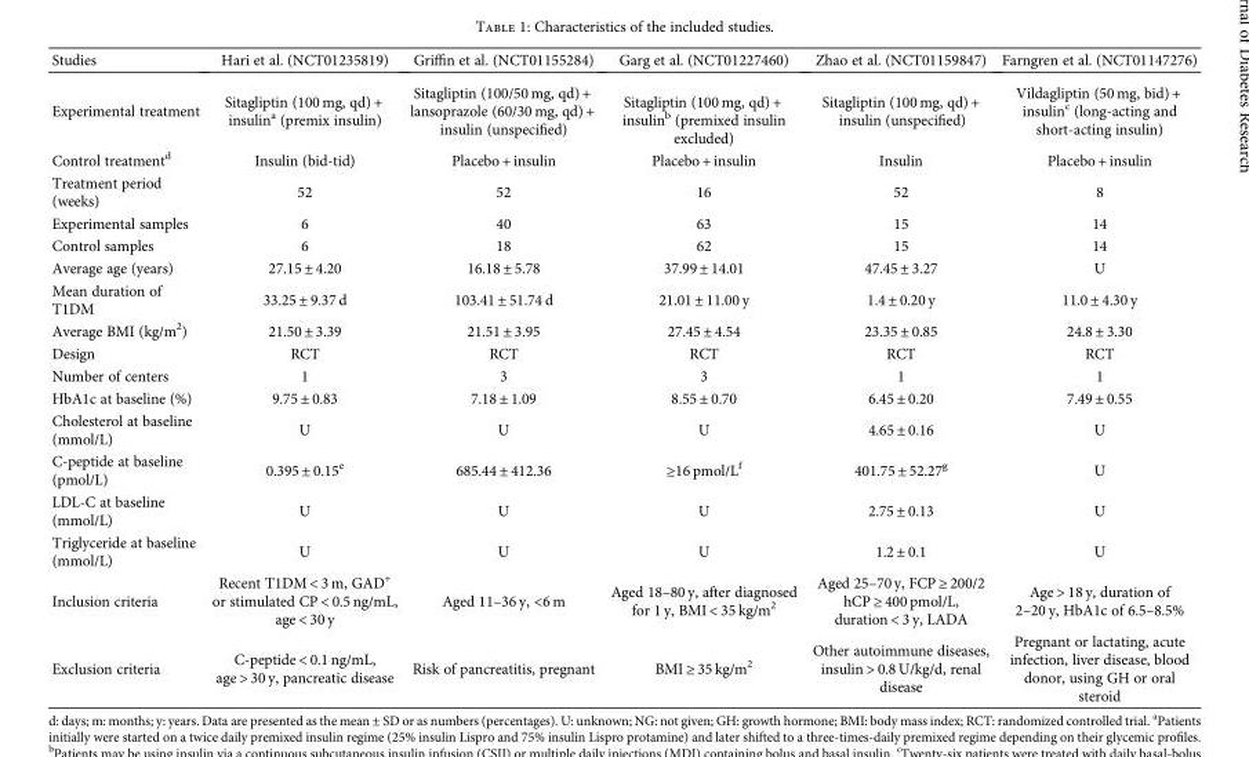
<table><thead><tr><td>Studies</td><td>Hari et al. (NCT01235819)</td><td>Griffin et al. (NCT01155284)</td><td>Garg et al. (NCT01227460)</td><td>Zhao et al. (NCT01159847)</td><td>Farngren et al. (NCT01147276)</td></tr></thead><tbody><tr><td>Experimental treatment</td><td>Sitagliptin (100 mg, qd) + insulin<sup>a</sup> (premix insulin)</td><td>Sitagliptin (100/50 mg, qd) + lansoprazole (60/30 mg, qd) + insulin (unspecified)</td><td>Sitagliptin (100 mg, qd) + insulin<sup>b</sup> (premixed insulin excluded)</td><td>Sitagliptin (100 mg, qd) + insulin (unspecified)</td><td>Vildagliptin (50 mg, bid) + insulin<sup>c</sup> (long-acting and short-acting insulin)</td></tr><tr><td>Control treatment<sup>d</sup></td><td>Insulin (bid-tid)</td><td>Placebo + insulin</td><td>Placebo + insulin</td><td>Insulin</td><td>Placebo + insulin</td></tr><tr><td>Treatment period (weeks)</td><td>52</td><td>52</td><td>16</td><td>52</td><td>8</td></tr><tr><td>Experimental samples</td><td>6</td><td>40</td><td>63</td><td>15</td><td>14</td></tr><tr><td>Control samples</td><td>6</td><td>18</td><td>62</td><td>15</td><td>14</td></tr><tr><td>Average age (years)</td><td>27.15 ± 4.20</td><td>16.18 ± 5.78</td><td>37.99 ± 14.01</td><td>47.45 ± 3.27</td><td>U</td></tr><tr><td>Mean duration of T1DM</td><td>33.25 ± 9.37 d</td><td>103.41 ± 51.74 d</td><td>21.01 ± 11.00 y</td><td>1.4 ± 0.20 y</td><td>11.0 ± 4.30 y</td></tr><tr><td>Average BMI (kg/m<sup>2</sup>)</td><td>21.50 ± 3.39</td><td>21.51 ± 3.95</td><td>27.45 ± 4.54</td><td>23.35 ± 0.85</td><td>24.8 ± 3.30</td></tr><tr><td>Design</td><td>RCT</td><td>RCT</td><td>RCT</td><td>RCT</td><td>RCT</td></tr><tr><td>Number of centers</td><td>1</td><td>3</td><td>3</td><td>1</td><td>1</td></tr><tr><td>HbA1c at baseline (%)</td><td>9.75 ± 0.83</td><td>7.18 ± 1.09</td><td>8.55 ± 0.70</td><td>6.45 ± 0.20</td><td>7.49 ± 0.55</td></tr><tr><td>Cholesterol at baseline (mmol/L)</td><td>U</td><td>U</td><td>U</td><td>4.65 ± 0.16</td><td>U</td></tr><tr><td>C-peptide at baseline (pmol/L)</td><td>0.395 ± 0.15<sup>e</sup></td><td>685.44 ± 412.36</td><td>≥16 pmol/L<sup>f</sup></td><td>401.75 ± 52.27<sup>g</sup></td><td>U</td></tr><tr><td>LDL-C at baseline (mmol/L)</td><td>U</td><td>U</td><td>U</td><td>2.75 ± 0.13</td><td>U</td></tr><tr><td>Triglyceride at baseline (mmol/L)</td><td>U</td><td>U</td><td>U</td><td>1.2 ± 0.1</td><td>U</td></tr><tr><td>Inclusion criteria</td><td>Recent T1DM &lt; 3 m, GAD<sup>+</sup> or stimulated CP &lt; 0.5 ng/mL, age &lt; 30 y</td><td>Aged 11–36 y, &lt;6 m</td><td>Aged 18–80 y, after diagnosed for 1 y, BMI &lt; 35 kg/m<sup>2</sup></td><td>Aged 25–70 y, FCP ≥ 200/2 hCP ≥ 400 pmol/L, duration &lt; 3 y, LADA</td><td>Age &gt; 18 y, duration of 2–20 y, HbA1c of 6.5–8.5%</td></tr><tr><td>Exclusion criteria</td><td>C-peptide &lt; 0.1 ng/mL, age &gt; 30 y, pancreatic disease</td><td>Risk of pancreatitis, pregnant</td><td>BMI ≥ 35 kg/m<sup>2</sup></td><td>Other autoimmune diseases, insulin &gt; 0.8 U/kg/d, renal disease</td><td>Pregnant or lactating, acute infection, liver disease, blood donor, using GH or oral steroid</td></tr></tbody></table>